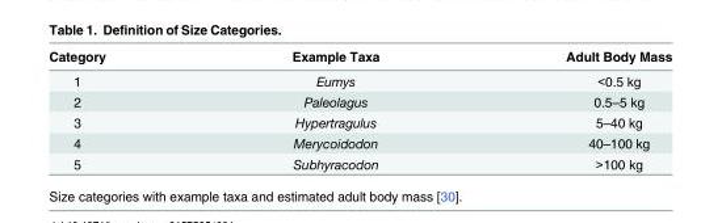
<table><thead><tr><td>Category</td><td>Example Taxa</td><td>Adult Body Mass</td></tr></thead><tbody><tr><td>1</td><td>Eumys</td><td>&lt;0.5 kg</td></tr><tr><td>2</td><td>Paleolagus</td><td>0.5–5 kg</td></tr><tr><td>3</td><td>Hypertragulus</td><td>5–40 kg</td></tr><tr><td>4</td><td>Merycoidodon</td><td>40–100 kg</td></tr><tr><td>5</td><td>Subhyracodon</td><td>&gt;100 kg</td></tr></tbody></table>